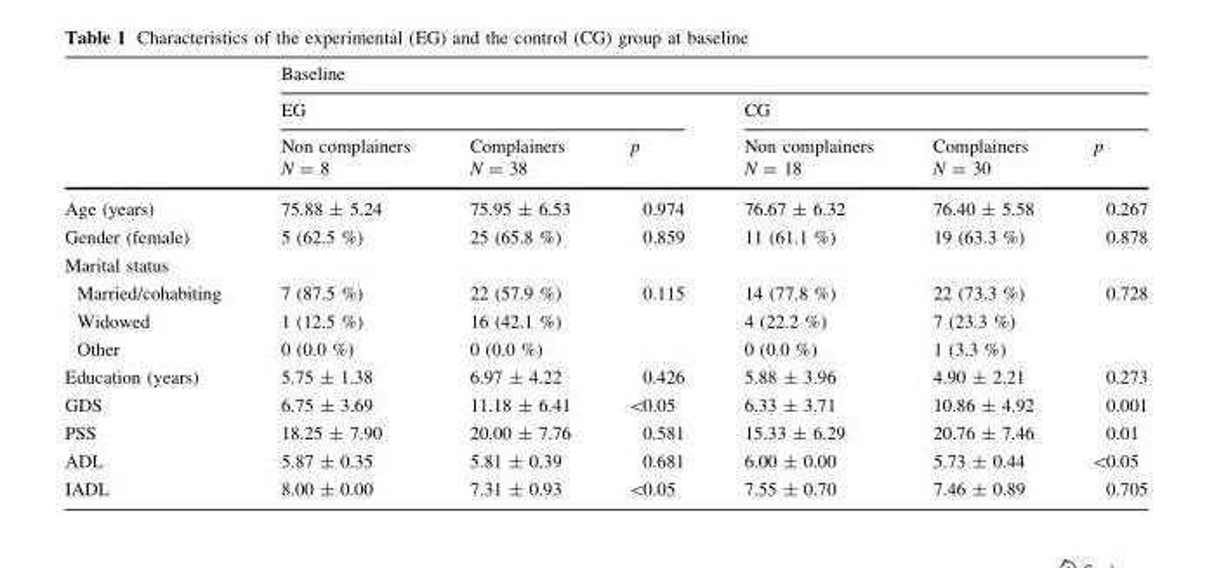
<table><thead><tr><td rowspan="4"></td><td colspan="6">Baseline</td></tr><tr><td colspan="3">EG</td><td colspan="3">CG</td></tr><tr><td rowspan="2">Non complainers N = 8</td><td rowspan="2">Complainers N = 38</td><td rowspan="2">p</td><td rowspan="2">Non complainers N = 18</td><td rowspan="2">Complainers N = 30</td><td rowspan="2">p</td></tr><tr></tr></thead><tbody><tr><td>Age (years)</td><td>75.88 ± 5.24</td><td>75.95 ± 6.53</td><td>0.974</td><td>76.67 ± 6.32</td><td>76.40 ± 5.58</td><td>0.267</td></tr><tr><td>Gender (female)</td><td>5 (62.5 %)</td><td>25 (65.8 %)</td><td>0.859</td><td>11 (61.1 %)</td><td>19 (63.3 %)</td><td>0.878</td></tr><tr><td colspan="7">Marital status</td></tr><tr><td>Married/cohabiting</td><td>7 (87.5 %)</td><td>22 (57.9 %)</td><td rowspan="3">0.115</td><td>14 (77.8 %)</td><td>22 (73.3 %)</td><td rowspan="3">0.728</td></tr><tr><td>Widowed</td><td>1 (12.5 %)</td><td>16 (42.1 %)</td><td>4 (22.2 %)</td><td>7 (23.3 %)</td></tr><tr><td>Other</td><td>0 (0.0 %)</td><td>0 (0.0 %)</td><td>0 (0.0 %)</td><td>1 (3.3 %)</td></tr><tr><td>Education (years)</td><td>5.75 ± 1.38</td><td>6.97 ± 4.22</td><td>0.426</td><td>5.88 ± 3.96</td><td>4.90 ± 2.21</td><td>0.273</td></tr><tr><td>GDS</td><td>6.75 ± 3.69</td><td>11.18 ± 6.41</td><td>&lt;0.05</td><td>6.33 ± 3.71</td><td>10.86 ± 4.92</td><td>0.001</td></tr><tr><td>PSS</td><td>18.25 ± 7.90</td><td>20.00 ± 7.76</td><td>0.581</td><td>15.33 ± 6.29</td><td>20.76 ± 7.46</td><td>0.01</td></tr><tr><td>ADL</td><td>5.87 ± 0.35</td><td>5.81 ± 0.39</td><td>0.681</td><td>6.00 ± 0.00</td><td>5.73 ± 0.44</td><td>&lt;0.05</td></tr><tr><td>IADL</td><td>8.00 ± 0.00</td><td>7.31 ± 0.93</td><td>&lt;0.05</td><td>7.55 ± 0.70</td><td>7.46 ± 0.89</td><td>0.705</td></tr></tbody></table>